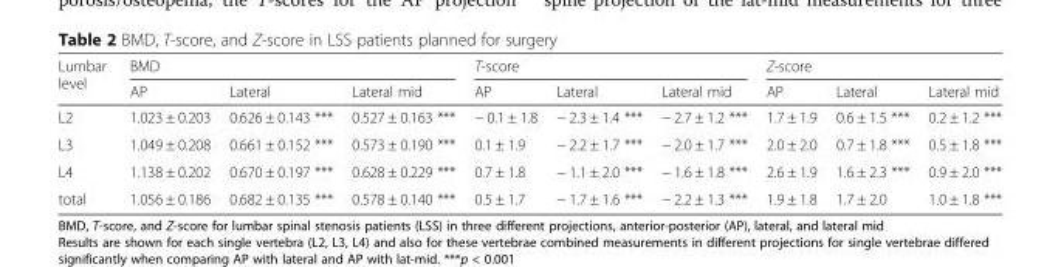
<table><thead><tr><td rowspan="2">Lumbar level</td><td colspan="3">BMD</td><td colspan="3">T-score</td><td colspan="3">Z-score</td></tr><tr><td>AP</td><td>Lateral</td><td>Lateral mid</td><td>AP</td><td>Lateral</td><td>Lateral mid</td><td>AP</td><td>Lateral</td><td>Lateral mid</td></tr></thead><tbody><tr><td>L2</td><td>1.023 ± 0.203</td><td>0.626 ± 0.143 ***</td><td>0.527 ± 0.163 ***</td><td>− 0.1 ± 1.8</td><td>− 2.3 ± 1.4 ***</td><td>− 2.7 ± 1.2 ***</td><td>1.7 ± 1.9</td><td>0.6 ± 1.5 ***</td><td>0.2 ± 1.2 ***</td></tr><tr><td>L3</td><td>1.049 ± 0.208</td><td>0.661 ± 0.152 ***</td><td>0.573 ± 0.190 ***</td><td>0.1 ± 1.9</td><td>− 2.2 ± 1.7 ***</td><td>− 2.0 ± 1.7 ***</td><td>2.0 ± 2.0</td><td>0.7 ± 1.8 ***</td><td>0.5 ± 1.8 ***</td></tr><tr><td>L4</td><td>1.138 ± 0.202</td><td>0.670 ± 0.197 ***</td><td>0.628 ± 0.229 ***</td><td>0.7 ± 1.8</td><td>− 1.1 ± 2.0 ***</td><td>− 1.6 ± 1.8 ***</td><td>2.6 ± 1.9</td><td>1.6 ± 2.3 ***</td><td>0.9 ± 2.0 ***</td></tr><tr><td>total</td><td>1.056 ± 0.186</td><td>0.682 ± 0.135 ***</td><td>0.578 ± 0.140 ***</td><td>0.5 ± 1.7</td><td>− 1.7 ± 1.6 ***</td><td>− 2.2 ± 1.3 ***</td><td>1.9 ± 1.8</td><td>1.7 ± 2.0</td><td>1.0 ± 1.8 ***</td></tr></tbody></table>